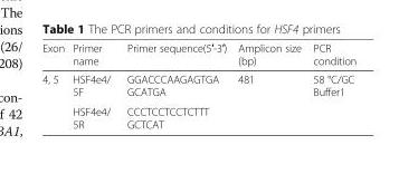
<table><thead><tr><td>Exon</td><td>Primer name</td><td>Primer sequence(5′-3′)</td><td>Amplicon size (bp)</td><td>PCR condition</td></tr></thead><tbody><tr><td rowspan="2">4, 5</td><td>HSF4e4/ 5F</td><td>GGACCCAAGAGTGA GCATGA</td><td>481</td><td>58 °C/GC Buffer1</td></tr><tr><td>HSF4e4/ 5R</td><td>CCCTCCTCCTCTTT GCTCAT</td><td></td><td></td></tr></tbody></table>